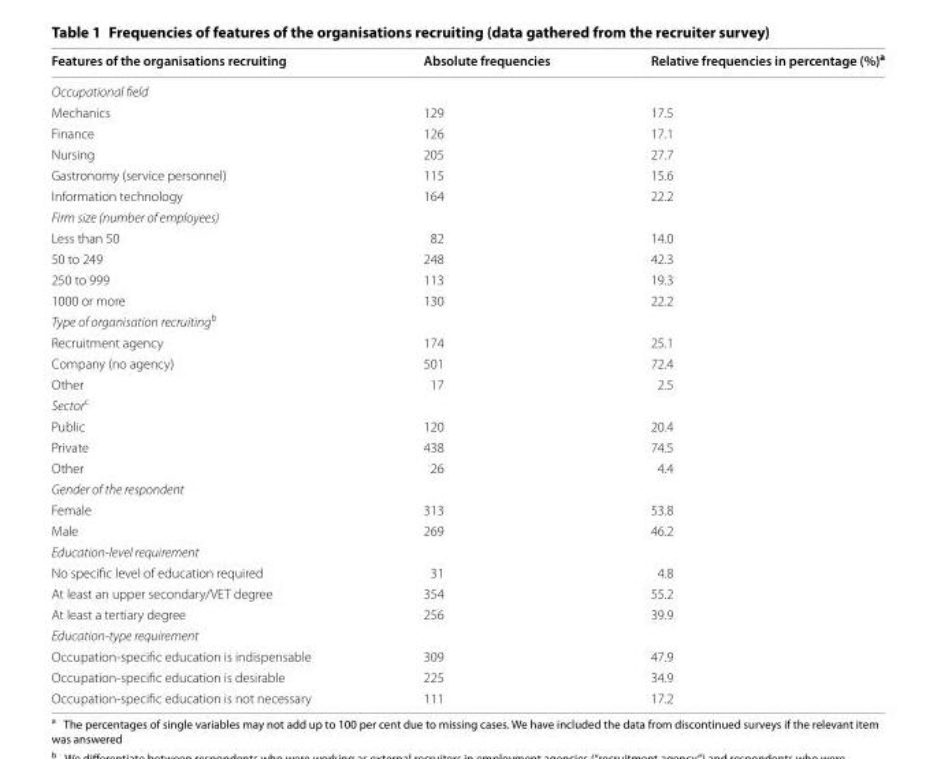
<table><thead><tr><td>Features of the organisations recruiting</td><td>Absolute frequencies</td><td>Relative frequencies in percentage (%)<sup>a</sup></td></tr></thead><tbody><tr><td colspan="3">Occupational field</td></tr><tr><td>Mechanics</td><td>129</td><td>17.5</td></tr><tr><td>Finance</td><td>126</td><td>17.1</td></tr><tr><td>Nursing</td><td>205</td><td>27.7</td></tr><tr><td>Gastronomy (service personnel)</td><td>115</td><td>15.6</td></tr><tr><td>Information technology</td><td>164</td><td>22.2</td></tr><tr><td colspan="3">Firm size (number of employees)</td></tr><tr><td>Less than 50</td><td>82</td><td>14.0</td></tr><tr><td>50 to 249</td><td>248</td><td>42.3</td></tr><tr><td>250 to 999</td><td>113</td><td>19.3</td></tr><tr><td>1000 or more</td><td>130</td><td>22.2</td></tr><tr><td colspan="3">Type of organisation recruiting<sup>b</sup></td></tr><tr><td>Recruitment agency</td><td>174</td><td>25.1</td></tr><tr><td>Company (no agency)</td><td>501</td><td>72.4</td></tr><tr><td>Other</td><td>17</td><td>2.5</td></tr><tr><td colspan="3">Sector<sup>c</sup></td></tr><tr><td>Public</td><td>120</td><td>20.4</td></tr><tr><td>Private</td><td>438</td><td>74.5</td></tr><tr><td>Other</td><td>26</td><td>4.4</td></tr><tr><td colspan="3">Gender of the respondent</td></tr><tr><td>Female</td><td>313</td><td>53.8</td></tr><tr><td>Male</td><td>269</td><td>46.2</td></tr><tr><td colspan="3">Education-level requirement</td></tr><tr><td>No specific level of education required</td><td>31</td><td>4.8</td></tr><tr><td>At least an upper secondary/VET degree</td><td>354</td><td>55.2</td></tr><tr><td>At least a tertiary degree</td><td>256</td><td>39.9</td></tr><tr><td colspan="3">Education-type requirement</td></tr><tr><td>Occupation-specific education is indispensable</td><td>309</td><td>47.9</td></tr><tr><td>Occupation-specific education is desirable</td><td>225</td><td>34.9</td></tr><tr><td>Occupation-specific education is not necessary</td><td>111</td><td>17.2</td></tr></tbody></table>